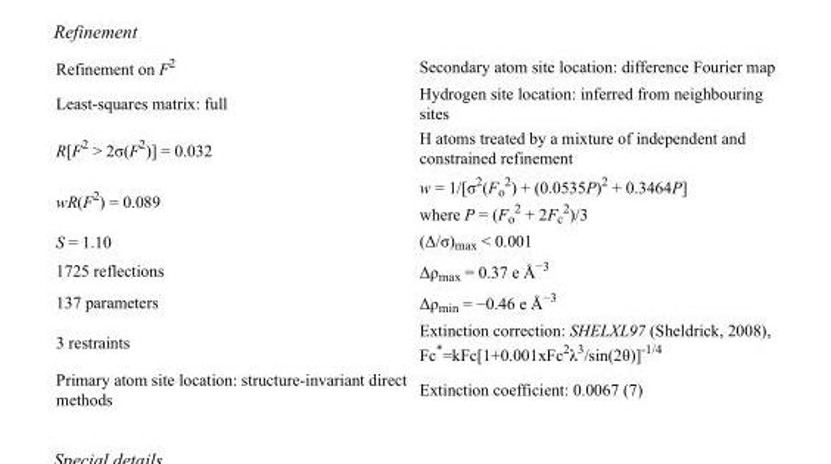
<table><tbody><tr><td>Refinement on F<sup>2</sup></td><td>Secondary atom site location: difference Fourier map</td></tr><tr><td>Least-squares matrix: full</td><td>Hydrogen site location: inferred from neighbouring sites</td></tr><tr><td>R[F<sup>2</sup> &gt; 2σ(F<sup>2</sup>)] = 0.032</td><td>H atoms treated by a mixture of independent and constrained refinement</td></tr><tr><td>wR(F<sup>2</sup>) = 0.089</td><td>w = 1/[σ<sup>2</sup>(F<sub>o</sub> <sup>2</sup>) + (0.0535P)<sup>2</sup> + 0.3464P] where P = (F<sub>o</sub> <sup>2</sup> + 2F<sub>c</sub> <sup>2</sup>)/3</td></tr><tr><td>S = 1.10</td><td>(Δ/σ)<sub>max</sub> &lt; 0.001</td></tr><tr><td>1725 reflections</td><td>Δρ<sub>max</sub> = 0.37 e Å<sup>−3</sup></td></tr><tr><td>137 parameters</td><td>Δρ<sub>min</sub> = −0.46 e Å<sup>−3</sup></td></tr><tr><td>3 restraints</td><td>Extinction correction: SHELXL97 (Sheldrick, 2008), Fc*=kFc[1+0.001xFc<sup>2</sup>λ<sup>3</sup>/sin(2θ)]<sup>-1/4</sup></td></tr><tr><td>Primary atom site location: structure-invariant direct methods</td><td>Extinction coefficient: 0.0067 (7)</td></tr></tbody></table>